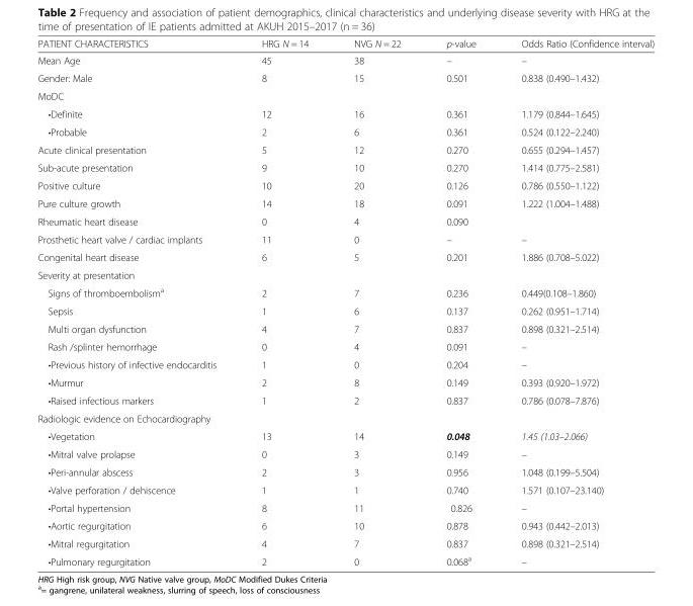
<table><thead><tr><td>PATIENT CHARACTERISTICS</td><td>HRG N = 14</td><td>NVG N = 22</td><td>p-value</td><td>Odds Ratio (Confidence interval)</td></tr></thead><tbody><tr><td>Mean Age</td><td>45</td><td>38</td><td>–</td><td>–</td></tr><tr><td>Gender: Male</td><td>8</td><td>15</td><td>0.501</td><td>0.838 (0.490–1.432)</td></tr><tr><td colspan="5">MoDC</td></tr><tr><td>•Definite</td><td>12</td><td>16</td><td>0.361</td><td>1.179 (0.844–1.645)</td></tr><tr><td>•Probable</td><td>2</td><td>6</td><td>0.361</td><td>0.524 (0.122–2.240)</td></tr><tr><td>Acute clinical presentation</td><td>5</td><td>12</td><td>0.270</td><td>0.655 (0.294–1.457)</td></tr><tr><td>Sub-acute presentation</td><td>9</td><td>10</td><td>0.270</td><td>1.414 (0.775–2.581)</td></tr><tr><td>Positive culture</td><td>10</td><td>20</td><td>0.126</td><td>0.786 (0.550–1.122)</td></tr><tr><td>Pure culture growth</td><td>14</td><td>18</td><td>0.091</td><td>1.222 (1.004–1.488)</td></tr><tr><td>Rheumatic heart disease</td><td>0</td><td>4</td><td>0.090</td><td></td></tr><tr><td>Prosthetic heart valve / cardiac implants</td><td>11</td><td>0</td><td>–</td><td>–</td></tr><tr><td>Congenital heart disease</td><td>6</td><td>5</td><td>0.201</td><td>1.886 (0.708–5.022)</td></tr><tr><td colspan="5">Severity at presentation</td></tr><tr><td>Signs of thromboembolism<sup>a</sup></td><td>2</td><td>7</td><td>0.236</td><td>0.449(0.108–1.860)</td></tr><tr><td>Sepsis</td><td>1</td><td>6</td><td>0.137</td><td>0.262 (0.951–1.714)</td></tr><tr><td>Multi organ dysfunction</td><td>4</td><td>7</td><td>0.837</td><td>0.898 (0.321–2.514)</td></tr><tr><td>Rash /splinter hemorrhage</td><td>0</td><td>4</td><td>0.091</td><td>–</td></tr><tr><td>•Previous history of infective endocarditis</td><td>1</td><td>0</td><td>0.204</td><td>–</td></tr><tr><td>•Murmur</td><td>2</td><td>8</td><td>0.149</td><td>0.393 (0.920–1.972)</td></tr><tr><td>•Raised infectious markers</td><td>1</td><td>2</td><td>0.837</td><td>0.786 (0.078–7.876)</td></tr><tr><td colspan="5">Radiologic evidence on Echocardiography</td></tr><tr><td>•Vegetation</td><td>13</td><td>14</td><td>0.048</td><td>1.45 (1.03–2.066)</td></tr><tr><td>•Mitral valve prolapse</td><td>0</td><td>3</td><td>0.149</td><td>–</td></tr><tr><td>•Peri-annular abscess</td><td>2</td><td>3</td><td>0.956</td><td>1.048 (0.199–5.504)</td></tr><tr><td>•Valve perforation / dehiscence</td><td>1</td><td>1</td><td>0.740</td><td>1.571 (0.107–23.140)</td></tr><tr><td>•Portal hypertension</td><td>8</td><td>11</td><td>0.826</td><td>–</td></tr><tr><td>•Aortic regurgitation</td><td>6</td><td>10</td><td>0.878</td><td>0.943 (0.442–2.013)</td></tr><tr><td>•Mitral regurgitation</td><td>4</td><td>7</td><td>0.837</td><td>0.898 (0.321–2.514)</td></tr><tr><td>•Pulmonary regurgitation</td><td>2</td><td>0</td><td>0.068<sup>a</sup></td><td>–</td></tr></tbody></table>